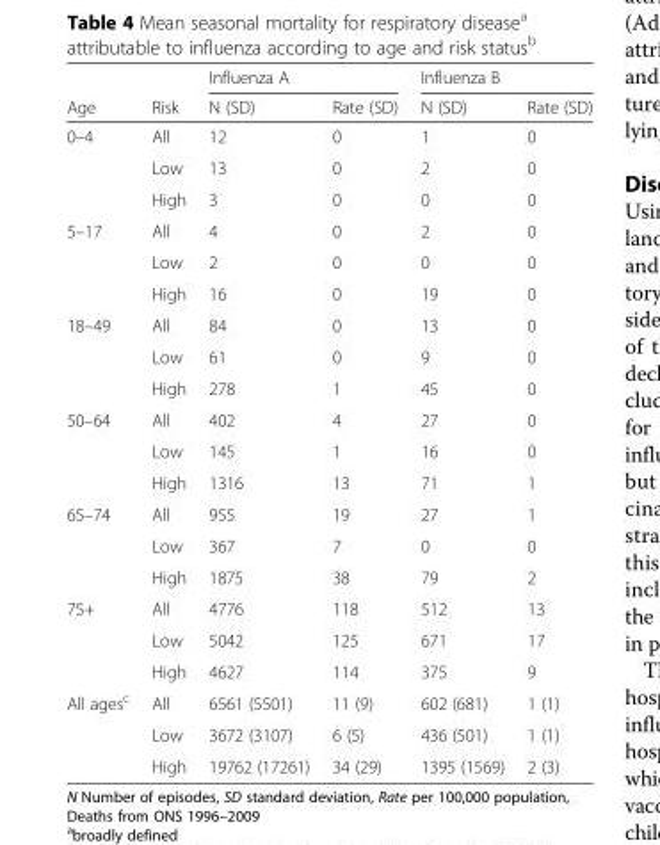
<table><thead><tr><td rowspan="2">Age</td><td rowspan="2">Risk</td><td colspan="2">Influenza A</td><td colspan="2">Influenza B</td></tr><tr><td>N (SD)</td><td>Rate (SD)</td><td>N (SD)</td><td>Rate (SD)</td></tr></thead><tbody><tr><td rowspan="3">0–4</td><td>All</td><td>12</td><td>0</td><td>1</td><td>0</td></tr><tr><td>Low</td><td>13</td><td>0</td><td>2</td><td>0</td></tr><tr><td>High</td><td>3</td><td>0</td><td>0</td><td>0</td></tr><tr><td rowspan="3">5–17</td><td>All</td><td>4</td><td>0</td><td>2</td><td>0</td></tr><tr><td>Low</td><td>2</td><td>0</td><td>0</td><td>0</td></tr><tr><td>High</td><td>16</td><td>0</td><td>19</td><td>0</td></tr><tr><td rowspan="3">18–49</td><td>All</td><td>84</td><td>0</td><td>13</td><td>0</td></tr><tr><td>Low</td><td>61</td><td>0</td><td>9</td><td>0</td></tr><tr><td>High</td><td>278</td><td>1</td><td>45</td><td>0</td></tr><tr><td rowspan="3">50–64</td><td>All</td><td>402</td><td>4</td><td>27</td><td>0</td></tr><tr><td>Low</td><td>145</td><td>1</td><td>16</td><td>0</td></tr><tr><td>High</td><td>1316</td><td>13</td><td>71</td><td>1</td></tr><tr><td rowspan="3">65–74</td><td>All</td><td>955</td><td>19</td><td>27</td><td>1</td></tr><tr><td>Low</td><td>367</td><td>7</td><td>0</td><td>0</td></tr><tr><td>High</td><td>1875</td><td>38</td><td>79</td><td>2</td></tr><tr><td rowspan="3">75+</td><td>All</td><td>4776</td><td>118</td><td>512</td><td>13</td></tr><tr><td>Low</td><td>5042</td><td>125</td><td>671</td><td>17</td></tr><tr><td>High</td><td>4627</td><td>114</td><td>375</td><td>9</td></tr><tr><td rowspan="3">All ages<sup>c</sup></td><td>All</td><td>6561 (5501)</td><td>11 (9)</td><td>602 (681)</td><td>1 (1)</td></tr><tr><td>Low</td><td>3672 (3107)</td><td>6 (5)</td><td>436 (501)</td><td>1 (1)</td></tr><tr><td>High</td><td>19762 (17261)</td><td>34 (29)</td><td>1395 (1569)</td><td>2 (3)</td></tr></tbody></table>